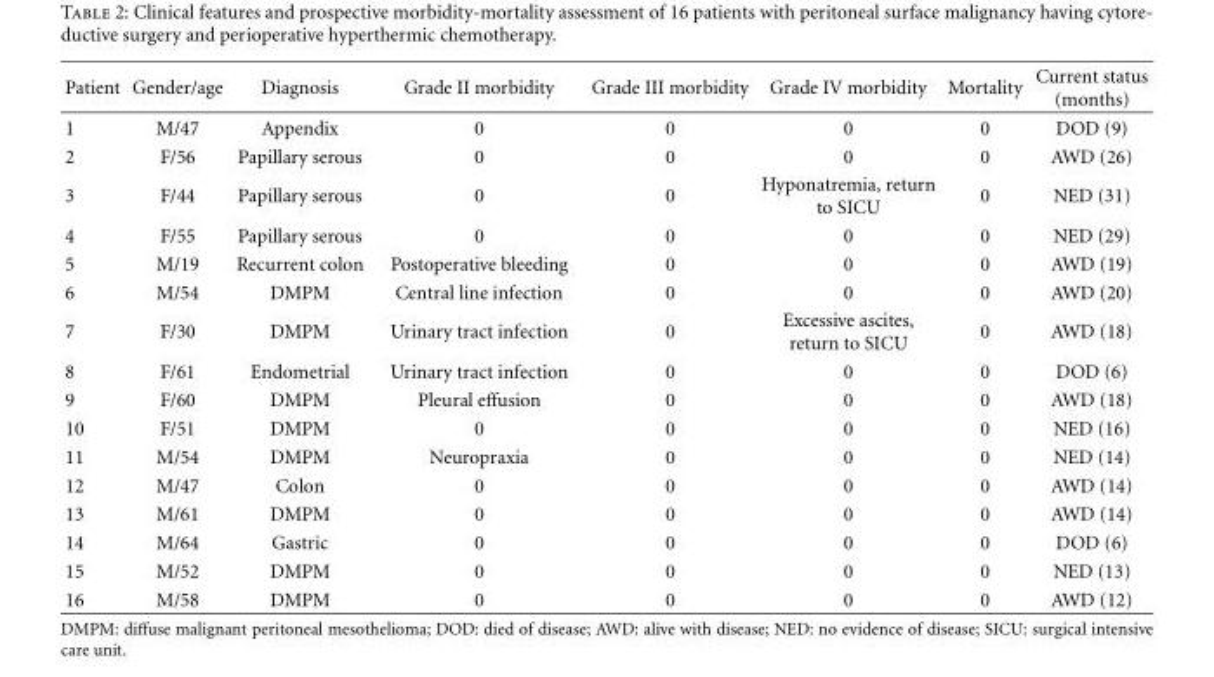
<table><thead><tr><td>Patient</td><td>Gender/age</td><td>Diagnosis</td><td>Grade II morbidity</td><td>Grade III morbidity</td><td>Grade IV morbidity</td><td>Mortality</td><td>Current status (months)</td></tr></thead><tbody><tr><td>1</td><td>M/47</td><td>Appendix</td><td>0</td><td>0</td><td>0</td><td>0</td><td>DOD (9)</td></tr><tr><td>2</td><td>F/56</td><td>Papillary serous</td><td>0</td><td>0</td><td>0</td><td>0</td><td>AWD (26)</td></tr><tr><td>3</td><td>F/44</td><td>Papillary serous</td><td>0</td><td>0</td><td>Hyponatremia, return to SICU</td><td>0</td><td>NED (31)</td></tr><tr><td>4</td><td>F/55</td><td>Papillary serous</td><td>0</td><td>0</td><td>0</td><td>0</td><td>NED (29)</td></tr><tr><td>5</td><td>M/19</td><td>Recurrent colon</td><td>Postoperative bleeding</td><td>0</td><td>0</td><td>0</td><td>AWD (19)</td></tr><tr><td>6</td><td>M/54</td><td>DMPM</td><td>Central line infection</td><td>0</td><td>0</td><td>0</td><td>AWD (20)</td></tr><tr><td>7</td><td>F/30</td><td>DMPM</td><td>Urinary tract infection</td><td>0</td><td>Excessive ascites, return to SICU</td><td>0</td><td>AWD (18)</td></tr><tr><td>8</td><td>F/61</td><td>Endometrial</td><td>Urinary tract infection</td><td>0</td><td>0</td><td>0</td><td>DOD (6)</td></tr><tr><td>9</td><td>F/60</td><td>DMPM</td><td>Pleural effusion</td><td>0</td><td>0</td><td>0</td><td>AWD (18)</td></tr><tr><td>10</td><td>F/51</td><td>DMPM</td><td>0</td><td>0</td><td>0</td><td>0</td><td>NED (16)</td></tr><tr><td>11</td><td>M/54</td><td>DMPM</td><td>Neuropraxia</td><td>0</td><td>0</td><td>0</td><td>NED (14)</td></tr><tr><td>12</td><td>M/47</td><td>Colon</td><td>0</td><td>0</td><td>0</td><td>0</td><td>AWD (14)</td></tr><tr><td>13</td><td>M/61</td><td>DMPM</td><td>0</td><td>0</td><td>0</td><td>0</td><td>AWD (14)</td></tr><tr><td>14</td><td>M/64</td><td>Gastric</td><td>0</td><td>0</td><td>0</td><td>0</td><td>DOD (6)</td></tr><tr><td>15</td><td>M/52</td><td>DMPM</td><td>0</td><td>0</td><td>0</td><td>0</td><td>NED (13)</td></tr><tr><td>16</td><td>M/58</td><td>DMPM</td><td>0</td><td>0</td><td>0</td><td>0</td><td>AWD (12)</td></tr></tbody></table>